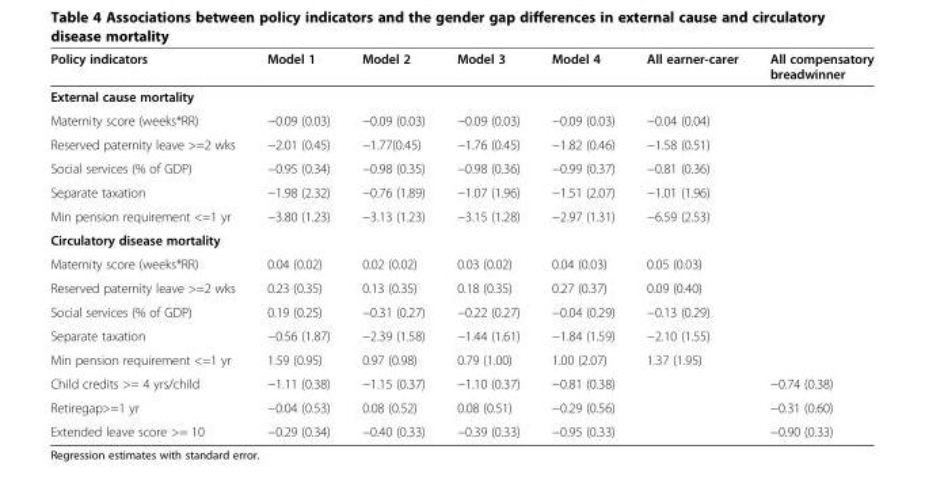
<table><thead><tr><td>Policy indicators</td><td>Model 1</td><td>Model 2</td><td>Model 3</td><td>Model 4</td><td>All earner-carer</td><td>All compensatory breadwinner</td></tr></thead><tbody><tr><td colspan="7">External cause mortality</td></tr><tr><td>Maternity score (weeks*RR)</td><td>−0.09 (0.03)</td><td>−0.09 (0.03)</td><td>−0.09 (0.03)</td><td>−0.09 (0.03)</td><td>−0.04 (0.04)</td><td></td></tr><tr><td>Reserved paternity leave &gt;=2 wks</td><td>−2.01 (0.45)</td><td>−1.77(0.45)</td><td>−1.76 (0.45)</td><td>−1.82 (0.46)</td><td>−1.58 (0.51)</td><td></td></tr><tr><td>Social services (% of GDP)</td><td>−0.95 (0.34)</td><td>−0.98 (0.35)</td><td>−0.98 (0.36)</td><td>−0.99 (0.37)</td><td>−0.81 (0.36)</td><td></td></tr><tr><td>Separate taxation</td><td>−1.98 (2.32)</td><td>−0.76 (1.89)</td><td>−1.07 (1.96)</td><td>−1.51 (2.07)</td><td>−1.01 (1.96)</td><td></td></tr><tr><td>Min pension requirement &lt;=1 yr</td><td>−3.80 (1.23)</td><td>−3.13 (1.23)</td><td>−3.15 (1.28)</td><td>−2.97 (1.31)</td><td>−6.59 (2.53)</td><td></td></tr><tr><td colspan="7">Circulatory disease mortality</td></tr><tr><td>Maternity score (weeks*RR)</td><td>0.04 (0.02)</td><td>0.02 (0.02)</td><td>0.03 (0.02)</td><td>0.04 (0.03)</td><td>0.05 (0.03)</td><td></td></tr><tr><td>Reserved paternity leave &gt;=2 wks</td><td>0.23 (0.35)</td><td>0.13 (0.35)</td><td>0.18 (0.35)</td><td>0.27 (0.37)</td><td>0.09 (0.40)</td><td></td></tr><tr><td>Social services (% of GDP)</td><td>0.19 (0.25)</td><td>−0.31 (0.27)</td><td>−0.22 (0.27)</td><td>−0.04 (0.29)</td><td>−0.13 (0.29)</td><td></td></tr><tr><td>Separate taxation</td><td>−0.56 (1.87)</td><td>−2.39 (1.58)</td><td>−1.44 (1.61)</td><td>−1.84 (1.59)</td><td>−2.10 (1.55)</td><td></td></tr><tr><td>Min pension requirement &lt;=1 yr</td><td>1.59 (0.95)</td><td>0.97 (0.98)</td><td>0.79 (1.00)</td><td>1.00 (2.07)</td><td>1.37 (1.95)</td><td></td></tr><tr><td>Child credits &gt;= 4 yrs/child</td><td>−1.11 (0.38)</td><td>−1.15 (0.37)</td><td>−1.10 (0.37)</td><td>−0.81 (0.38)</td><td></td><td>−0.74 (0.38)</td></tr><tr><td>Retiregap&gt;=1 yr</td><td>−0.04 (0.53)</td><td>0.08 (0.52)</td><td>0.08 (0.51)</td><td>−0.29 (0.56)</td><td></td><td>−0.31 (0.60)</td></tr><tr><td>Extended leave score &gt;= 10</td><td>−0.29 (0.34)</td><td>−0.40 (0.33)</td><td>−0.39 (0.33)</td><td>−0.95 (0.33)</td><td></td><td>−0.90 (0.33)</td></tr></tbody></table>